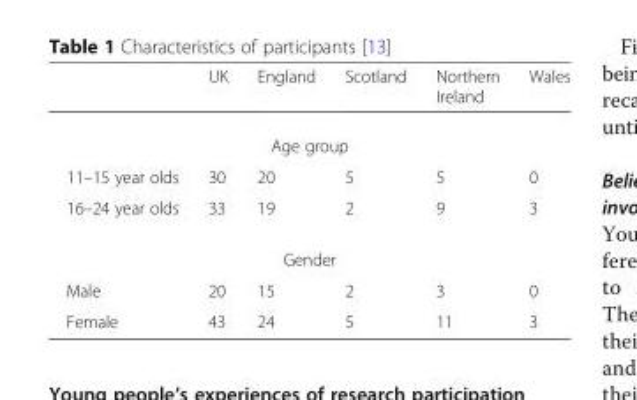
<table><thead><tr><td></td><td>UK</td><td>England</td><td>Scotland</td><td>Northern Ireland</td><td>Wales</td></tr></thead><tbody><tr><td colspan="6">Age group</td></tr><tr><td>11–15 year olds</td><td>30</td><td>20</td><td>5</td><td>5</td><td>0</td></tr><tr><td>16–24 year olds</td><td>33</td><td>19</td><td>2</td><td>9</td><td>3</td></tr><tr><td colspan="6">Gender</td></tr><tr><td>Male</td><td>20</td><td>15</td><td>2</td><td>3</td><td>0</td></tr><tr><td>Female</td><td>43</td><td>24</td><td>5</td><td>11</td><td>3</td></tr></tbody></table>